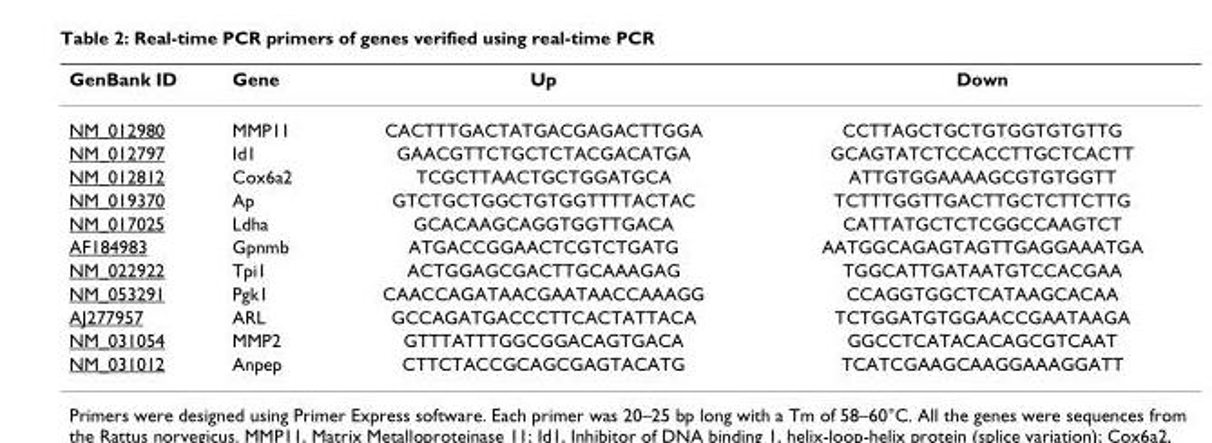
<table><thead><tr><td>GenBank ID</td><td>Gene</td><td>Up</td><td>Down</td></tr></thead><tbody><tr><td>NM_012980</td><td>MMP11</td><td>CACTTTGACTATGACGAGACTTGGA</td><td>CCTTAGCTGCTGTGGTGTGTTG</td></tr><tr><td>NM_012797</td><td>Id1</td><td>GAACGTTCTGCTCTACGACATGA</td><td>GCAGTATCTCCACCTTGCTCACTT</td></tr><tr><td>NM_012812</td><td>Cox6a2</td><td>TCGCTTAACTGCTGGATGCA</td><td>ATTGTGGAAAAGCGTGTGGTT</td></tr><tr><td>NM_019370</td><td>Ap</td><td>GTCTGCTGGCTGTGGTTTTACTAC</td><td>TCTTTGGTTGACTTGCTCTTCTTG</td></tr><tr><td>NM_017025</td><td>Ldha</td><td>GCACAAGCAGGTGGTTGACA</td><td>CATTATGCTCTCGGCCAAGTCT</td></tr><tr><td>AF184983</td><td>Gpnmb</td><td>ATGACCGGAACTCGTCTGATG</td><td>AATGGCAGAGTAGTTGAGGAAATGA</td></tr><tr><td>NM_022922</td><td>Tpi1</td><td>ACTGGAGCGACTTGCAAAGAG</td><td>TGGCATTGATAATGTCCACGAA</td></tr><tr><td>NM_053291</td><td>Pgk1</td><td>CAACCAGATAACGAATAACCAAAGG</td><td>CCAGGTGGCTCATAAGCACAA</td></tr><tr><td>AJ277957</td><td>ARL</td><td>GCCAGATGACCCTTCACTATTACA</td><td>TCTGGATGTGGAACCGAATAAGA</td></tr><tr><td>NM_031054</td><td>MMP2</td><td>GTTTATTTGGCGGACAGTGACA</td><td>GGCCTCATACACAGCGTCAAT</td></tr><tr><td>NM_031012</td><td>Anpep</td><td>CTTCTACCGCAGCGAGTACATG</td><td>TCATCGAAGCAAGGAAAGGATT</td></tr></tbody></table>